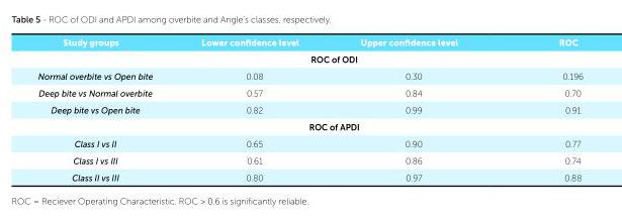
<table><tbody><tr><td>Study groups</td><td>Lower confidence level</td><td>Upper confidence level</td><td rowspan="2">ROC</td></tr><tr><td colspan="3">ROC of ODI</td></tr><tr><td>Normal overbite vs Open bite</td><td>0.08</td><td>0.30</td><td>0.196</td></tr><tr><td>Deep bite vs Normal overbite</td><td>0.57</td><td>0.84</td><td>0.70</td></tr><tr><td>Deep bite vs Open bite</td><td>0.82</td><td>0.99</td><td rowspan="2">0.91</td></tr><tr><td colspan="3">ROC of APDI</td></tr><tr><td>Class I vs II</td><td>0.65</td><td>0.90</td><td>0.77</td></tr><tr><td>Class I vs III</td><td>0.61</td><td>0.86</td><td>0.74</td></tr><tr><td>Class II vs III</td><td>0.80</td><td>0.97</td><td>0.88</td></tr></tbody></table>